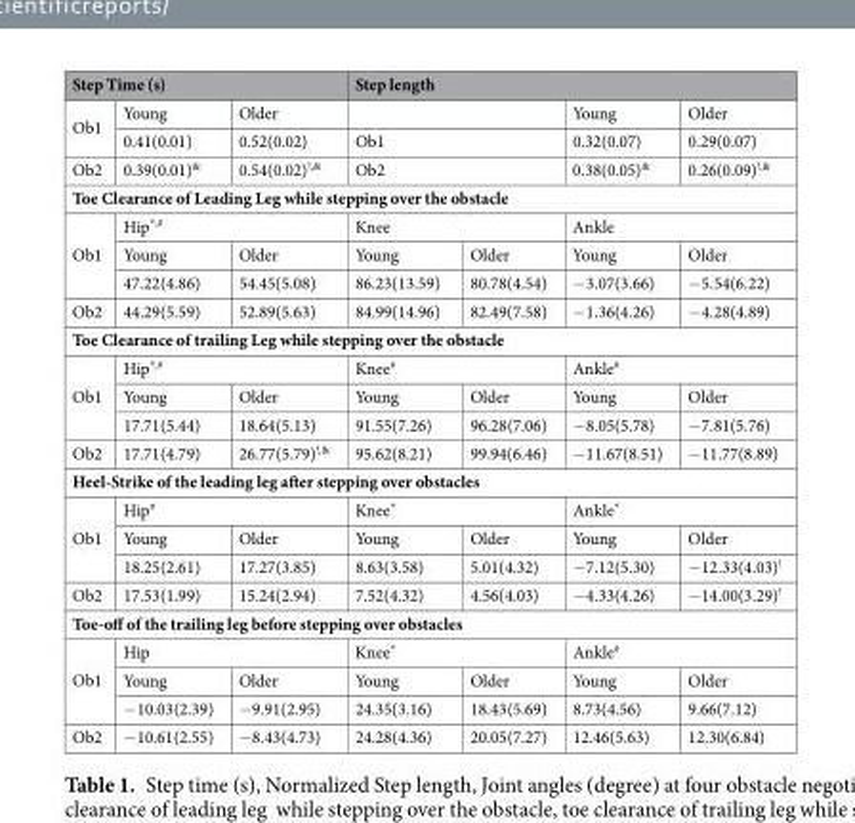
<table><thead><tr><td colspan="3">Step Time (s)</td><td colspan="4">Step length</td></tr></thead><tbody><tr><td rowspan="2">Ob1</td><td>Young</td><td>Older</td><td colspan="2"></td><td>Young</td><td>Older</td></tr><tr><td>0.41(0.01)</td><td>0.52(0.02)</td><td colspan="2">Ob1</td><td>0.32(0.07)</td><td>0.29(0.07)</td></tr><tr><td>Ob2</td><td>0.39(0.01)<sup>&amp;</sup></td><td>0.54(0.02)<sup>!,&amp;</sup></td><td colspan="2">Ob2</td><td>0.38(0.05)<sup>&amp;</sup></td><td>0.26(0.09)<sup>!,&amp;</sup></td></tr><tr><td colspan="7">Toe Clearance of Leading Leg while stepping over the obstacle</td></tr><tr><td rowspan="3">Ob1</td><td colspan="2">Hip<sup>*,#</sup></td><td colspan="2">Knee</td><td colspan="2">Ankle</td></tr><tr><td>Young</td><td>Older</td><td>Young</td><td>Older</td><td>Young</td><td>Older</td></tr><tr><td>47.22(4.86)</td><td>54.45(5.08)</td><td>86.23(13.59)</td><td>80.78(4.54)</td><td>−3.07(3.66)</td><td>−5.54(6.22)</td></tr><tr><td>Ob2</td><td>44.29(5.59)</td><td>52.89(5.63)</td><td>84.99(14.96)</td><td>82.49(7.58)</td><td>−1.36(4.26)</td><td>−4.28(4.89)</td></tr><tr><td colspan="7">Toe Clearance of trailing Leg while stepping over the obstacle</td></tr><tr><td rowspan="3">Ob1</td><td colspan="2">Hip<sup>*,#</sup></td><td colspan="2">Knee<sup>#</sup></td><td colspan="2">Ankle<sup>#</sup></td></tr><tr><td>Young</td><td>Older</td><td>Young</td><td>Older</td><td>Young</td><td>Older</td></tr><tr><td>17.71(5.44)</td><td>18.64(5.13)</td><td>91.55(7.26)</td><td>96.28(7.06)</td><td>−8.05(5.78)</td><td>−7.81(5.76)</td></tr><tr><td>Ob2</td><td>17.71(4.79)</td><td>26.77(5.79)<sup>!,&amp;</sup></td><td>95.62(8.21)</td><td>99.94(6.46)</td><td>−11.67(8.51)</td><td>−11.77(8.89)</td></tr><tr><td colspan="7">Heel-Strike of the leading leg after stepping over obstacles</td></tr><tr><td rowspan="3">Ob1</td><td colspan="2">Hip<sup>#</sup></td><td colspan="2">Knee*</td><td colspan="2">Ankle*</td></tr><tr><td>Young</td><td>Older</td><td>Young</td><td>Older</td><td>Young</td><td>Older</td></tr><tr><td>18.25(2.61)</td><td>17.27(3.85)</td><td>8.63(3.58)</td><td>5.01(4.32)</td><td>−7.12(5.30)</td><td>−12.33(4.03)<sup>!</sup></td></tr><tr><td>Ob2</td><td>17.53(1.99)</td><td>15.24(2.94)</td><td>7.52(4.32)</td><td>4.56(4.03)</td><td>−4.33(4.26)</td><td>−14.00(3.29)<sup>!</sup></td></tr><tr><td colspan="7">Toe-off of the trailing leg before stepping over obstacles</td></tr><tr><td rowspan="3">Ob1</td><td colspan="2">Hip</td><td colspan="2">Knee*</td><td colspan="2">Ankle<sup>#</sup></td></tr><tr><td>Young</td><td>Older</td><td>Young</td><td>Older</td><td>Young</td><td>Older</td></tr><tr><td>−10.03(2.39)</td><td>−9.91(2.95)</td><td>24.35(3.16)</td><td>18.43(5.69)</td><td>8.73(4.56)</td><td>9.66(7.12)</td></tr><tr><td>Ob2</td><td>−10.61(2.55)</td><td>−8.43(4.73)</td><td>24.28(4.36)</td><td>20.05(7.27)</td><td>12.46(5.63)</td><td>12.30(6.84)</td></tr></tbody></table>